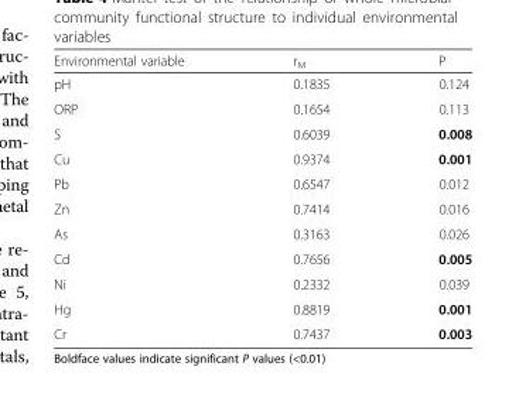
<table><thead><tr><td>Environmental variable</td><td>r<sub>M</sub></td><td>P</td></tr></thead><tbody><tr><td>pH</td><td>0.1835</td><td>0.124</td></tr><tr><td>ORP</td><td>0.1654</td><td>0.113</td></tr><tr><td>S</td><td>0.6039</td><td>0.008</td></tr><tr><td>Cu</td><td>0.9374</td><td>0.001</td></tr><tr><td>Pb</td><td>0.6547</td><td>0.012</td></tr><tr><td>Zn</td><td>0.7414</td><td>0.016</td></tr><tr><td>As</td><td>0.3163</td><td>0.026</td></tr><tr><td>Cd</td><td>0.7656</td><td>0.005</td></tr><tr><td>Ni</td><td>0.2332</td><td>0.039</td></tr><tr><td>Hg</td><td>0.8819</td><td>0.001</td></tr><tr><td>Cr</td><td>0.7437</td><td>0.003</td></tr></tbody></table>